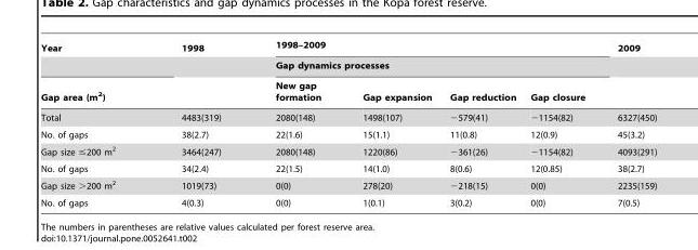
<table><thead><tr><td rowspan="3">Year Gap area (m<sup>2</sup>)</td><td rowspan="3">1998</td><td rowspan="2" colspan="4">1998–2009 Gap dynamics processes</td><td rowspan="3">2009</td></tr><tr></tr><tr><td>New gap formation</td><td>Gap expansion</td><td>Gap reduction</td><td>Gap closure</td></tr></thead><tbody><tr><td>Total</td><td>4483(319)</td><td>2080(148)</td><td>1498(107)</td><td>−579(41)</td><td>−1154(82)</td><td>6327(450)</td></tr><tr><td>No. of gaps</td><td>38(2.7)</td><td>22(1.6)</td><td>15(1.1)</td><td>11(0.8)</td><td>12(0.9)</td><td>45(3.2)</td></tr><tr><td>Gap size ≤200 m<sup>2</sup></td><td>3464(247)</td><td>2080(148)</td><td>1220(86)</td><td>−361(26)</td><td>−1154(82)</td><td>4093(291)</td></tr><tr><td>No. of gaps</td><td>34(2.4)</td><td>22(1.5)</td><td>14(1.0)</td><td>8(0.6)</td><td>12(0.85)</td><td>38(2.7)</td></tr><tr><td>Gap size &gt;200 m<sup>2</sup></td><td>1019(73)</td><td>0(0)</td><td>278(20)</td><td>−218(15)</td><td>0(0)</td><td>2235(159)</td></tr><tr><td>No. of gaps</td><td>4(0.3)</td><td>0(0)</td><td>1(0.1)</td><td>3(0.2)</td><td>0(0)</td><td>7(0.5)</td></tr></tbody></table>